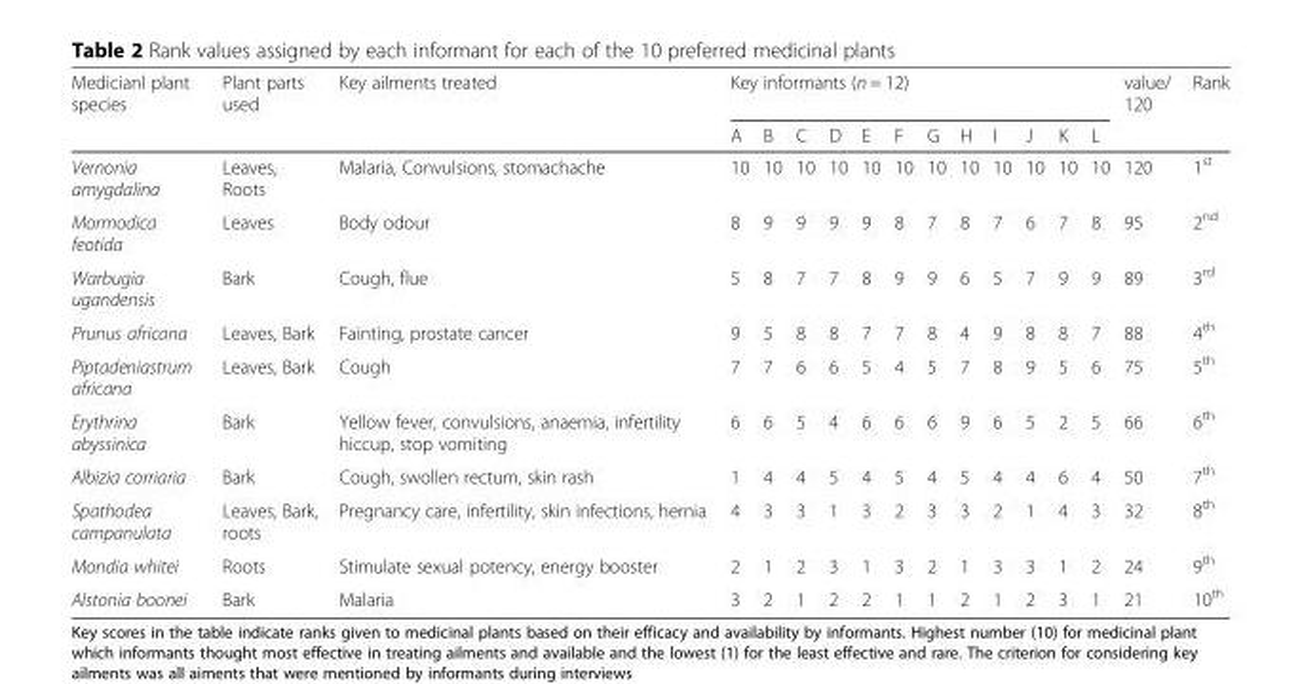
<table><thead><tr><td rowspan="2">Medicianl plant species</td><td rowspan="2">Plant parts used</td><td rowspan="2">Key ailments treated</td><td colspan="12">Key informants (n = 12)</td><td rowspan="2">value/ 120</td><td rowspan="2">Rank</td></tr><tr><td>A</td><td>B</td><td>C</td><td>D</td><td>E</td><td>F</td><td>G</td><td>H</td><td>I</td><td>J</td><td>K</td><td>L</td></tr></thead><tbody><tr><td>Vernonia amygdalina</td><td>Leaves, Roots</td><td>Malaria, Convulsions, stomachache</td><td>10</td><td>10</td><td>10</td><td>10</td><td>10</td><td>10</td><td>10</td><td>10</td><td>10</td><td>10</td><td>10</td><td>10</td><td>120</td><td>1<sup>st</sup></td></tr><tr><td>Mormodica feotida</td><td>Leaves</td><td>Body odour</td><td>8</td><td>9</td><td>9</td><td>9</td><td>9</td><td>8</td><td>7</td><td>8</td><td>7</td><td>6</td><td>7</td><td>8</td><td>95</td><td>2<sup>nd</sup></td></tr><tr><td>Warbugia ugandensis</td><td>Bark</td><td>Cough, flue</td><td>5</td><td>8</td><td>7</td><td>7</td><td>8</td><td>9</td><td>9</td><td>6</td><td>5</td><td>7</td><td>9</td><td>9</td><td>89</td><td>3<sup>rd</sup></td></tr><tr><td>Prunus africana</td><td>Leaves, Bark</td><td>Fainting, prostate cancer</td><td>9</td><td>5</td><td>8</td><td>8</td><td>7</td><td>7</td><td>8</td><td>4</td><td>9</td><td>8</td><td>8</td><td>7</td><td>88</td><td>4<sup>th</sup></td></tr><tr><td>Piptadeniastrum africana</td><td>Leaves, Bark</td><td>Cough</td><td>7</td><td>7</td><td>6</td><td>6</td><td>5</td><td>4</td><td>5</td><td>7</td><td>8</td><td>9</td><td>5</td><td>6</td><td>75</td><td>5<sup>th</sup></td></tr><tr><td>Erythrina abyssinica</td><td>Bark</td><td>Yellow fever, convulsions, anaemia, infertility hiccup, stop vomiting</td><td>6</td><td>6</td><td>5</td><td>4</td><td>6</td><td>6</td><td>6</td><td>9</td><td>6</td><td>5</td><td>2</td><td>5</td><td>66</td><td>6<sup>th</sup></td></tr><tr><td>Albizia corriaria</td><td>Bark</td><td>Cough, swollen rectum, skin rash</td><td>1</td><td>4</td><td>4</td><td>5</td><td>4</td><td>5</td><td>4</td><td>5</td><td>4</td><td>4</td><td>6</td><td>4</td><td>50</td><td>7<sup>th</sup></td></tr><tr><td>Spathodea campanulata</td><td>Leaves, Bark, roots</td><td>Pregnancy care, infertility, skin infections, hernia</td><td>4</td><td>3</td><td>3</td><td>1</td><td>3</td><td>2</td><td>3</td><td>3</td><td>2</td><td>1</td><td>4</td><td>3</td><td>32</td><td>8<sup>th</sup></td></tr><tr><td>Mondia whitei</td><td>Roots</td><td>Stimulate sexual potency, energy booster</td><td>2</td><td>1</td><td>2</td><td>3</td><td>1</td><td>3</td><td>2</td><td>1</td><td>3</td><td>3</td><td>1</td><td>2</td><td>24</td><td>9<sup>th</sup></td></tr><tr><td>Alstonia boonei</td><td>Bark</td><td>Malaria</td><td>3</td><td>2</td><td>1</td><td>2</td><td>2</td><td>1</td><td>1</td><td>2</td><td>1</td><td>2</td><td>3</td><td>1</td><td>21</td><td>10<sup>th</sup></td></tr></tbody></table>